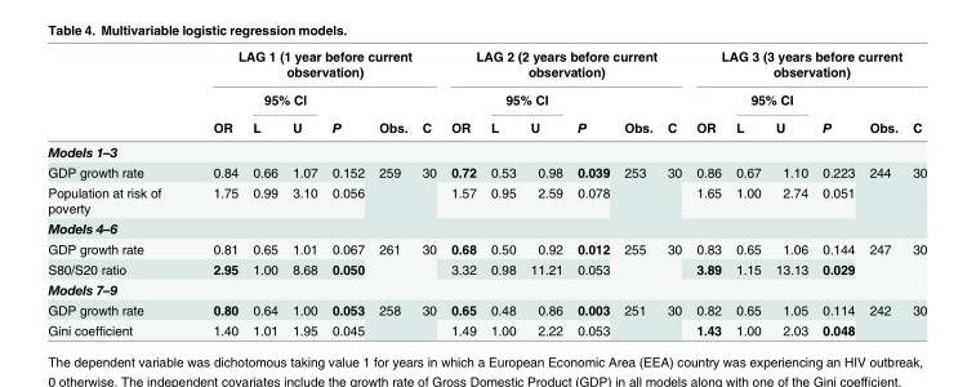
<table><thead><tr><td rowspan="3"></td><td colspan="6">LAG 1 (1 year before current observation)</td><td colspan="6">LAG 2 (2 years before current observation)</td><td colspan="6">LAG 3 (3 years before current observation)</td></tr><tr><td rowspan="2">OR</td><td colspan="2">95% CI</td><td rowspan="2">P</td><td rowspan="2">Obs.</td><td rowspan="2">C</td><td rowspan="2">OR</td><td colspan="2">95% CI</td><td rowspan="2">P</td><td rowspan="2">Obs.</td><td rowspan="2">C</td><td rowspan="2">OR</td><td colspan="2">95% CI</td><td rowspan="2">P</td><td rowspan="2">Obs.</td><td rowspan="2">C</td></tr><tr><td>L</td><td>U</td><td>L</td><td>U</td><td>L</td><td>U</td></tr></thead><tbody><tr><td colspan="19">Models 1–3</td></tr><tr><td>GDP growth rate</td><td>0.84</td><td>0.66</td><td>1.07</td><td>0.152</td><td rowspan="2">259</td><td rowspan="2">30</td><td>0.72</td><td>0.53</td><td>0.98</td><td>0.039</td><td rowspan="2">253</td><td rowspan="2">30</td><td>0.86</td><td>0.67</td><td>1.10</td><td>0.223</td><td rowspan="2">244</td><td rowspan="2">30</td></tr><tr><td>Population at risk of poverty</td><td>1.75</td><td>0.99</td><td>3.10</td><td>0.056</td><td>1.57</td><td>0.95</td><td>2.59</td><td>0.078</td><td>1.65</td><td>1.00</td><td>2.74</td><td>0.051</td></tr><tr><td colspan="19">Models 4–6</td></tr><tr><td>GDP growth rate</td><td>0.81</td><td>0.65</td><td>1.01</td><td>0.067</td><td rowspan="2">261</td><td rowspan="2">30</td><td>0.68</td><td>0.50</td><td>0.92</td><td>0.012</td><td rowspan="2">255</td><td rowspan="2">30</td><td>0.83</td><td>0.65</td><td>1.06</td><td>0.144</td><td rowspan="2">247</td><td rowspan="2">30</td></tr><tr><td>S80/S20 ratio</td><td>2.95</td><td>1.00</td><td>8.68</td><td>0.050</td><td>3.32</td><td>0.98</td><td>11.21</td><td>0.053</td><td>3.89</td><td>1.15</td><td>13.13</td><td>0.029</td></tr><tr><td colspan="19">Models 7–9</td></tr><tr><td>GDP growth rate</td><td>0.80</td><td>0.64</td><td>1.00</td><td>0.053</td><td rowspan="2">258</td><td rowspan="2">30</td><td>0.65</td><td>0.48</td><td>0.86</td><td>0.003</td><td rowspan="2">251</td><td rowspan="2">30</td><td>0.82</td><td>0.65</td><td>1.05</td><td>0.114</td><td rowspan="2">242</td><td rowspan="2">30</td></tr><tr><td>Gini coefficient</td><td>1.40</td><td>1.01</td><td>1.95</td><td>0.045</td><td>1.49</td><td>1.00</td><td>2.22</td><td>0.053</td><td>1.43</td><td>1.00</td><td>2.03</td><td>0.048</td></tr></tbody></table>